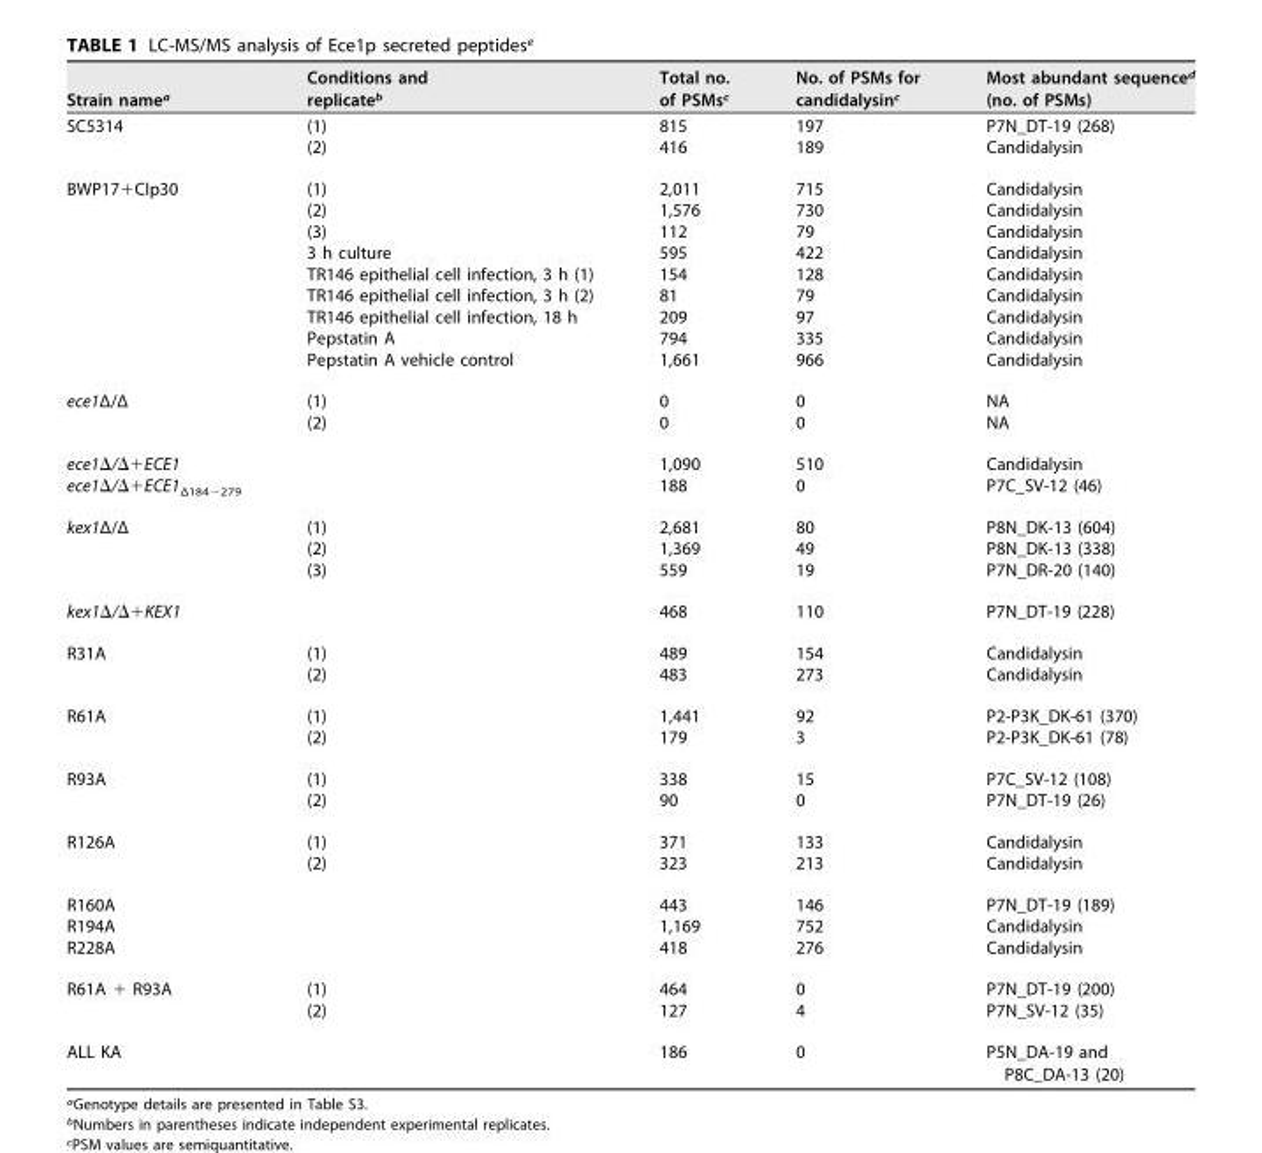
<table><thead><tr><td>Strain name<sup>a</sup></td><td>Conditions and replicate<sup>b</sup></td><td>Total no. of PSMs<sup>c</sup></td><td>No. of PSMs for candidalysin<sup>c</sup></td><td>Most abundant sequence<sup>d</sup> (no. of PSMs)</td></tr></thead><tbody><tr><td rowspan="2">SC5314</td><td>(1)</td><td>815</td><td>197</td><td>P7N_DT-19 (268)</td></tr><tr><td>(2)</td><td>416</td><td>189</td><td>Candidalysin</td></tr><tr><td rowspan="9">BWP17+CIp30</td><td>(1)</td><td>2,011</td><td>715</td><td>Candidalysin</td></tr><tr><td>(2)</td><td>1,576</td><td>730</td><td>Candidalysin</td></tr><tr><td>(3)</td><td>112</td><td>79</td><td>Candidalysin</td></tr><tr><td>3 h culture</td><td>595</td><td>422</td><td>Candidalysin</td></tr><tr><td>TR146 epithelial cell infection, 3 h (1)</td><td>154</td><td>128</td><td>Candidalysin</td></tr><tr><td>TR146 epithelial cell infection, 3 h (2)</td><td>81</td><td>79</td><td>Candidalysin</td></tr><tr><td>TR146 epithelial cell infection, 18 h</td><td>209</td><td>97</td><td>Candidalysin</td></tr><tr><td>Pepstatin A</td><td>794</td><td>335</td><td>Candidalysin</td></tr><tr><td>Pepstatin A vehicle control</td><td>1,661</td><td>966</td><td>Candidalysin</td></tr><tr><td rowspan="2">ece1Δ/Δ</td><td>(1)</td><td>0</td><td>0</td><td>NA</td></tr><tr><td>(2)</td><td>0</td><td>0</td><td>NA</td></tr><tr><td>ece1Δ/Δ+ECE1</td><td></td><td>1,090</td><td>510</td><td>Candidalysin</td></tr><tr><td>ece1Δ/Δ+ECE1<sub>Δ184−279</sub></td><td></td><td>188</td><td>0</td><td>P7C_SV-12 (46)</td></tr><tr><td rowspan="3">kex1Δ/Δ</td><td>(1)</td><td>2,681</td><td>80</td><td>P8N_DK-13 (604)</td></tr><tr><td>(2)</td><td>1,369</td><td>49</td><td>P8N_DK-13 (338)</td></tr><tr><td>(3)</td><td>559</td><td>19</td><td>P7N_DR-20 (140)</td></tr><tr><td>kex1Δ/Δ+KEX1</td><td></td><td>468</td><td>110</td><td>P7N_DT-19 (228)</td></tr><tr><td rowspan="2">R31A</td><td>(1)</td><td>489</td><td>154</td><td>Candidalysin</td></tr><tr><td>(2)</td><td>483</td><td>273</td><td>Candidalysin</td></tr><tr><td rowspan="2">R61A</td><td>(1)</td><td>1,441</td><td>92</td><td>P2-P3K_DK-61 (370)</td></tr><tr><td>(2)</td><td>179</td><td>3</td><td>P2-P3K_DK-61 (78)</td></tr><tr><td rowspan="2">R93A</td><td>(1)</td><td>338</td><td>15</td><td>P7C_SV-12 (108)</td></tr><tr><td>(2)</td><td>90</td><td>0</td><td>P7N_DT-19 (26)</td></tr><tr><td rowspan="2">R126A</td><td>(1)</td><td>371</td><td>133</td><td>Candidalysin</td></tr><tr><td>(2)</td><td>323</td><td>213</td><td>Candidalysin</td></tr><tr><td>R160A</td><td></td><td>443</td><td>146</td><td>P7N_DT-19 (189)</td></tr><tr><td>R194A</td><td></td><td>1,169</td><td>752</td><td>Candidalysin</td></tr><tr><td>R228A</td><td></td><td>418</td><td>276</td><td>Candidalysin</td></tr><tr><td rowspan="2">R61A + R93A</td><td>(1)</td><td>464</td><td>0</td><td>P7N_DT-19 (200)</td></tr><tr><td>(2)</td><td>127</td><td>4</td><td>P7N_SV-12 (35)</td></tr><tr><td>ALL KA</td><td></td><td>186</td><td>0</td><td>P5N_DA-19 and P8C_DA-13 (20)</td></tr></tbody></table>